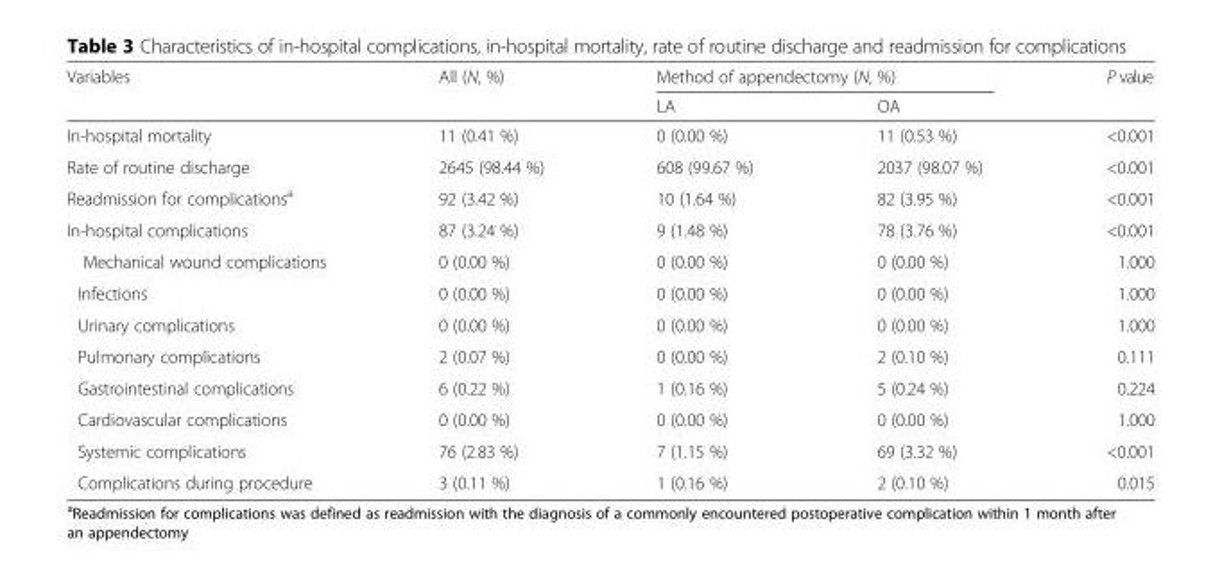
<table><thead><tr><td rowspan="2">Variables</td><td rowspan="2">All (N, %)</td><td colspan="2">Method of appendectomy (N, %)</td><td rowspan="2">P value</td></tr><tr><td>LA</td><td>OA</td></tr></thead><tbody><tr><td>In-hospital mortality</td><td>11 (0.41 %)</td><td>0 (0.00 %)</td><td>11 (0.53 %)</td><td>&lt;0.001</td></tr><tr><td>Rate of routine discharge</td><td>2645 (98.44 %)</td><td>608 (99.67 %)</td><td>2037 (98.07 %)</td><td>&lt;0.001</td></tr><tr><td>Readmission for complications<sup>a</sup></td><td>92 (3.42 %)</td><td>10 (1.64 %)</td><td>82 (3.95 %)</td><td>&lt;0.001</td></tr><tr><td>In-hospital complications</td><td>87 (3.24 %)</td><td>9 (1.48 %)</td><td>78 (3.76 %)</td><td>&lt;0.001</td></tr><tr><td>Mechanical wound complications</td><td>0 (0.00 %)</td><td>0 (0.00 %)</td><td>0 (0.00 %)</td><td>1.000</td></tr><tr><td>Infections</td><td>0 (0.00 %)</td><td>0 (0.00 %)</td><td>0 (0.00 %)</td><td>1.000</td></tr><tr><td>Urinary complications</td><td>0 (0.00 %)</td><td>0 (0.00 %)</td><td>0 (0.00 %)</td><td>1.000</td></tr><tr><td>Pulmonary complications</td><td>2 (0.07 %)</td><td>0 (0.00 %)</td><td>2 (0.10 %)</td><td>0.111</td></tr><tr><td>Gastrointestinal complications</td><td>6 (0.22 %)</td><td>1 (0.16 %)</td><td>5 (0.24 %)</td><td>0.224</td></tr><tr><td>Cardiovascular complications</td><td>0 (0.00 %)</td><td>0 (0.00 %)</td><td>0 (0.00 %)</td><td>1.000</td></tr><tr><td>Systemic complications</td><td>76 (2.83 %)</td><td>7 (1.15 %)</td><td>69 (3.32 %)</td><td>&lt;0.001</td></tr><tr><td>Complications during procedure</td><td>3 (0.11 %)</td><td>1 (0.16 %)</td><td>2 (0.10 %)</td><td>0.015</td></tr></tbody></table>